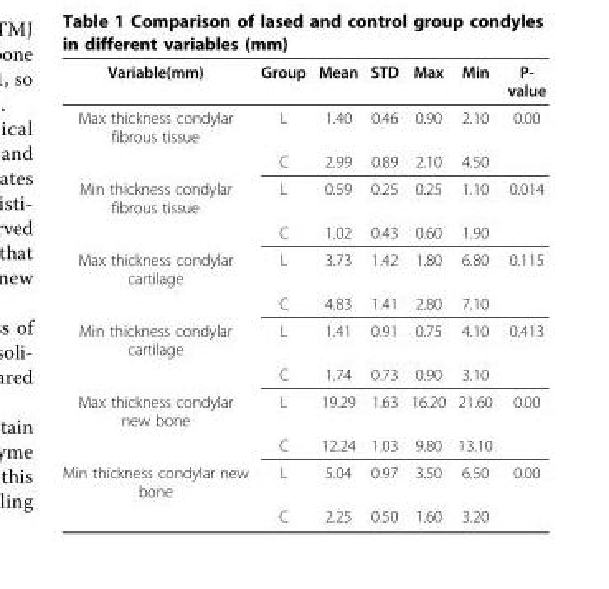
<table><thead><tr><td>Variable(mm)</td><td>Group</td><td>Mean</td><td>STD</td><td>Max</td><td>Min</td><td>P- value</td></tr></thead><tbody><tr><td rowspan="2">Max thickness condylar fibrous tissue</td><td>L</td><td>1.40</td><td>0.46</td><td>0.90</td><td>2.10</td><td>0.00</td></tr><tr><td>C</td><td>2.99</td><td>0.89</td><td>2.10</td><td>4.50</td><td></td></tr><tr><td rowspan="2">Min thickness condylar fibrous tissue</td><td>L</td><td>0.59</td><td>0.25</td><td>0.25</td><td>1.10</td><td>0.014</td></tr><tr><td>C</td><td>1.02</td><td>0.43</td><td>0.60</td><td>1.90</td><td></td></tr><tr><td rowspan="2">Max thickness condylar cartilage</td><td>L</td><td>3.73</td><td>1.42</td><td>1.80</td><td>6.80</td><td>0.115</td></tr><tr><td>C</td><td>4.83</td><td>1.41</td><td>2.80</td><td>7.10</td><td></td></tr><tr><td rowspan="2">Min thickness condylar cartilage</td><td>L</td><td>1.41</td><td>0.91</td><td>0.75</td><td>4.10</td><td>0.413</td></tr><tr><td>C</td><td>1.74</td><td>0.73</td><td>0.90</td><td>3.10</td><td></td></tr><tr><td rowspan="2">Max thickness condylar new bone</td><td>L</td><td>19.29</td><td>1.63</td><td>16.20</td><td>21.60</td><td>0.00</td></tr><tr><td>C</td><td>12.24</td><td>1.03</td><td>9.80</td><td>13.10</td><td></td></tr><tr><td rowspan="2">Min thickness condylar new bone</td><td>L</td><td>5.04</td><td>0.97</td><td>3.50</td><td>6.50</td><td>0.00</td></tr><tr><td>C</td><td>2.25</td><td>0.50</td><td>1.60</td><td>3.20</td><td></td></tr></tbody></table>